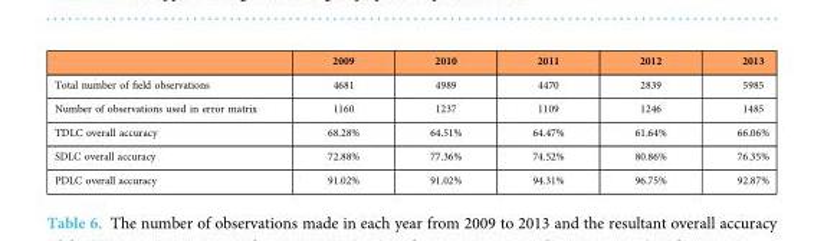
<table><thead><tr><td></td><td>2009</td><td>2010</td><td>2011</td><td>2012</td><td>2013</td></tr></thead><tbody><tr><td>Total number of field observations</td><td>4681</td><td>4989</td><td>4470</td><td>2839</td><td>5985</td></tr><tr><td>Number of observations used in error matrix</td><td>1160</td><td>1237</td><td>1109</td><td>1246</td><td>1485</td></tr><tr><td>TDLC overall accuracy</td><td>68.28%</td><td>64.51%</td><td>64.47%</td><td>61.64%</td><td>66.06%</td></tr><tr><td>SDLC overall accuracy</td><td>72.88%</td><td>77.36%</td><td>74.52%</td><td>80.86%</td><td>76.35%</td></tr><tr><td>PDLC overall accuracy</td><td>91.02%</td><td>91.02%</td><td>94.31%</td><td>96.75%</td><td>92.87%</td></tr></tbody></table>